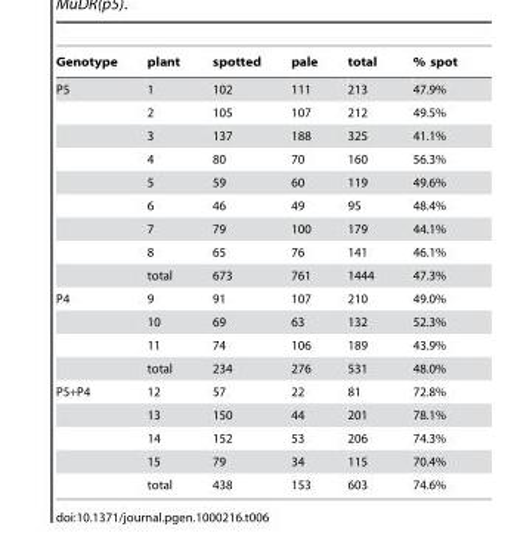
<table><thead><tr><td>Genotype</td><td>plant</td><td>spotted</td><td>pale</td><td>total</td><td>% spot</td></tr></thead><tbody><tr><td rowspan="9">P5</td><td>1</td><td>102</td><td>111</td><td>213</td><td>47.9%</td></tr><tr><td>2</td><td>105</td><td>107</td><td>212</td><td>49.5%</td></tr><tr><td>3</td><td>137</td><td>188</td><td>325</td><td>41.1%</td></tr><tr><td>4</td><td>80</td><td>70</td><td>160</td><td>56.3%</td></tr><tr><td>5</td><td>59</td><td>60</td><td>119</td><td>49.6%</td></tr><tr><td>6</td><td>46</td><td>49</td><td>95</td><td>48.4%</td></tr><tr><td>7</td><td>79</td><td>100</td><td>179</td><td>44.1%</td></tr><tr><td>8</td><td>65</td><td>76</td><td>141</td><td>46.1%</td></tr><tr><td>total</td><td>673</td><td>761</td><td>1444</td><td>47.3%</td></tr><tr><td rowspan="4">P4</td><td>9</td><td>91</td><td>107</td><td>210</td><td>49.0%</td></tr><tr><td>10</td><td>69</td><td>63</td><td>132</td><td>52.3%</td></tr><tr><td>11</td><td>74</td><td>106</td><td>189</td><td>43.9%</td></tr><tr><td>total</td><td>234</td><td>276</td><td>531</td><td>48.0%</td></tr><tr><td rowspan="5">P5+P4</td><td>12</td><td>57</td><td>22</td><td>81</td><td>72.8%</td></tr><tr><td>13</td><td>150</td><td>44</td><td>201</td><td>78.1%</td></tr><tr><td>14</td><td>152</td><td>53</td><td>206</td><td>74.3%</td></tr><tr><td>15</td><td>79</td><td>34</td><td>115</td><td>70.4%</td></tr><tr><td>total</td><td>438</td><td>153</td><td>603</td><td>74.6%</td></tr></tbody></table>